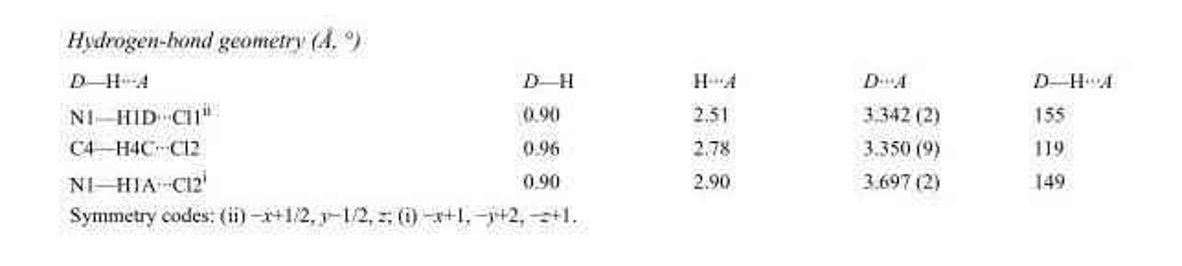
<table><tbody><tr><td>D—H···A</td><td>D—H</td><td>H···A</td><td>D···A</td><td>D—H···A</td></tr><tr><td>N1—H1D···Cl1<sup>ii</sup></td><td>0.90</td><td>2.51</td><td>3.342 (2)</td><td>155</td></tr><tr><td>C4—H4C···Cl2</td><td>0.96</td><td>2.78</td><td>3.350 (9)</td><td>119</td></tr><tr><td>N1—H1A···Cl2<sup>i</sup></td><td>0.90</td><td>2.90</td><td>3.697 (2)</td><td>149</td></tr></tbody></table>